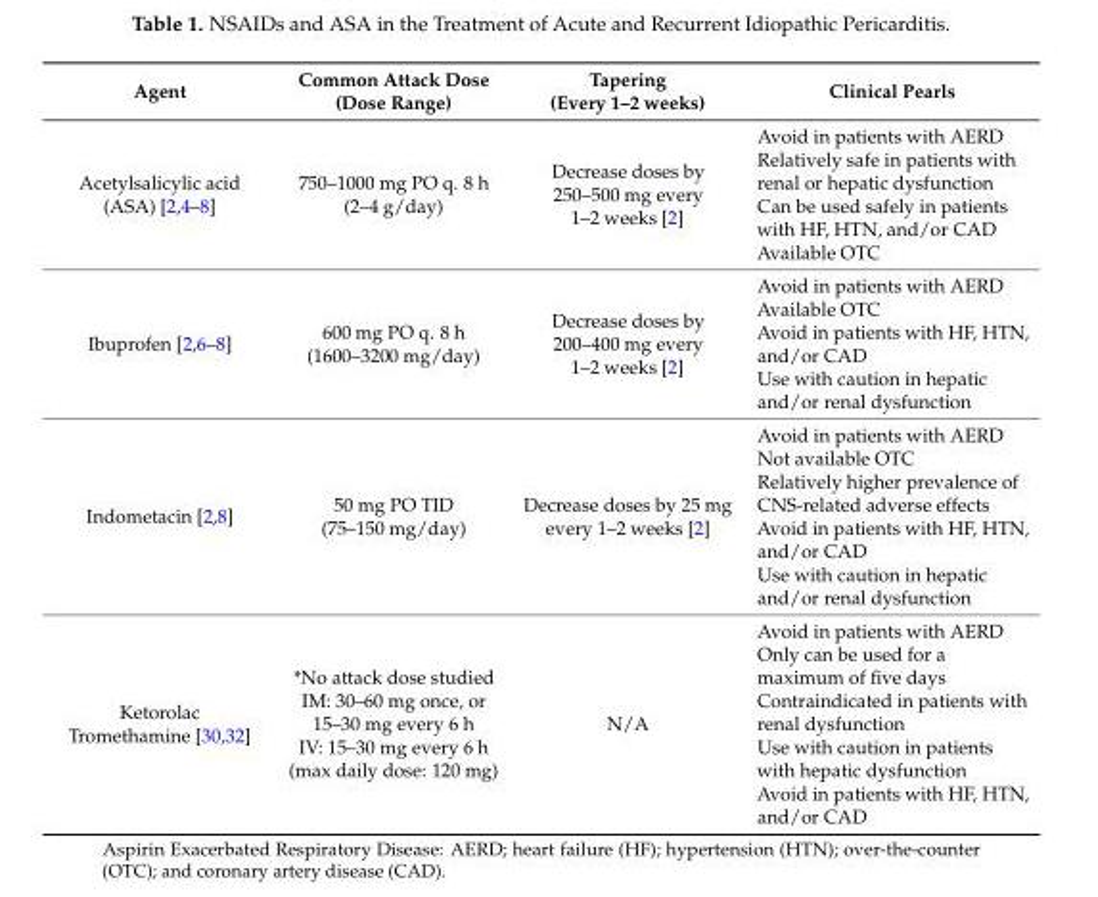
<table><thead><tr><td>Agent</td><td>Common Attack Dose (Dose Range)</td><td>Tapering (Every 1–2 weeks)</td><td>Clinical Pearls</td></tr></thead><tbody><tr><td>Acetylsalicylic acid (ASA) [2,4–8]</td><td>750–1000 mg PO q. 8 h (2–4 g/day)</td><td>Decrease doses by 250–500 mg every 1–2 weeks [2]</td><td>Avoid in patients with AERD Relatively safe in patients with renal or hepatic dysfunction Can be used safely in patients with HF, HTN, and/or CAD Available OTC</td></tr><tr><td>Ibuprofen [2,6–8]</td><td>600 mg PO q. 8 h (1600–3200 mg/day)</td><td>Decrease doses by 200–400 mg every 1–2 weeks [2]</td><td>Avoid in patients with AERD Available OTC Avoid in patients with HF, HTN, and/or CAD Use with caution in hepatic and/or renal dysfunction</td></tr><tr><td>Indometacin [2,8]</td><td>50 mg PO TID (75–150 mg/day)</td><td>Decrease doses by 25 mg every 1–2 weeks [2]</td><td>Avoid in patients with AERD Not available OTC Relatively higher prevalence of CNS-related adverse effects Avoid in patients with HF, HTN, and/or CAD Use with caution in hepatic and/or renal dysfunction</td></tr><tr><td>Ketorolac Tromethamine [30,32]</td><td>*No attack dose studied IM: 30–60 mg once, or 15–30 mg every 6 h IV: 15–30 mg every 6 h (max daily dose: 120 mg)</td><td>N/A</td><td>Avoid in patients with AERD Only can be used for a maximum of five days Contraindicated in patients with renal dysfunction Use with caution in patients with hepatic dysfunction Avoid in patients with HF, HTN, and/or CAD</td></tr></tbody></table>